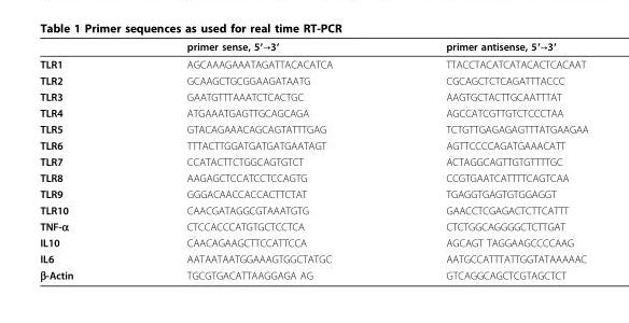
<table><thead><tr><td></td><td>primer sense, 5′→3′</td><td>primer antisense, 5′→3′</td></tr></thead><tbody><tr><td>TLR1</td><td>AGCAAAGAAATAGATTACACATCA</td><td>TTACCTACATCATACACTCACAAT</td></tr><tr><td>TLR2</td><td>GCAAGCTGCGGAAGATAATG</td><td>CGCAGCTCTCAGATTTACCC</td></tr><tr><td>TLR3</td><td>GAATGTTTAAATCTCACTGC</td><td>AAGTGCTACTTGCAATTTAT</td></tr><tr><td>TLR4</td><td>ATGAAATGAGTTGCAGCAGA</td><td>AGCCATCGTTGTCTCCCTAA</td></tr><tr><td>TLR5</td><td>GTACAGAAACAGCAGTATTTGAG</td><td>TCTGTTGAGAGAGTTTATGAAGAA</td></tr><tr><td>TLR6</td><td>TTTACTTGGATGATGATGAATAGT</td><td>AGTTCCCCAGATGAAACATT</td></tr><tr><td>TLR7</td><td>CCATACTTCTGGCAGTGTCT</td><td>ACTAGGCAGTTGTGTTTTGC</td></tr><tr><td>TLR8</td><td>AAGAGCTCCATCCTCCAGTG</td><td>CCGTGAATCATTTTCAGTCAA</td></tr><tr><td>TLR9</td><td>GGGACAACCACCACTTCTAT</td><td>TGAGGTGAGTGTGGAGGT</td></tr><tr><td>TLR10</td><td>CAACGATAGGCGTAAATGTG</td><td>GAACCTCGAGACTCTTCATTT</td></tr><tr><td>TNF-α</td><td>CTCCACCCATGTGCTCCTCA</td><td>CTCTGGCAGGGGCTCTTGAT</td></tr><tr><td>IL10</td><td>CAACAGAAGCTTCCATTCCA</td><td>AGCAGT TAGGAAGCCCCAAG</td></tr><tr><td>IL6</td><td>AATAATAATGGAAAGTGGCTATGC</td><td>AATGCCATTTATTGGTATAAAAAC</td></tr><tr><td>β-Actin</td><td>TGCGTGACATTAAGGAGA AG</td><td>GTCAGGCAGCTCGTAGCTCT</td></tr></tbody></table>